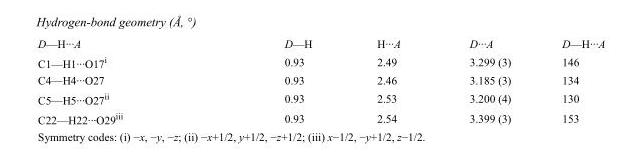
<table><tbody><tr><td>D—H···A</td><td>D—H</td><td>H···A</td><td>D···A</td><td>D—H···A</td></tr><tr><td>C1—H1···O17<sup>i</sup></td><td>0.93</td><td>2.49</td><td>3.299 (3)</td><td>146</td></tr><tr><td>C4—H4···O27</td><td>0.93</td><td>2.46</td><td>3.185 (3)</td><td>134</td></tr><tr><td>C5—H5···O27<sup>ii</sup></td><td>0.93</td><td>2.53</td><td>3.200 (4)</td><td>130</td></tr><tr><td>C22—H22···O29<sup>iii</sup></td><td>0.93</td><td>2.54</td><td>3.399 (3)</td><td>153</td></tr></tbody></table>